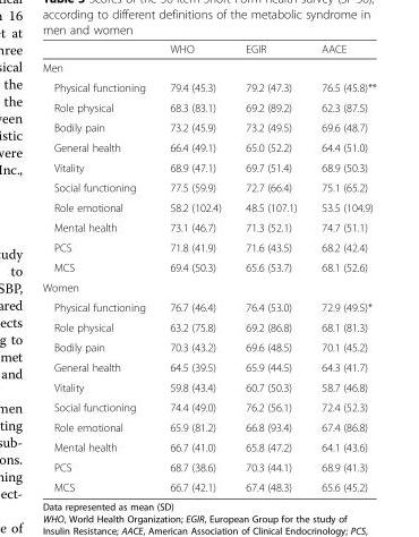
<table><thead><tr><td></td><td>WHO</td><td>EGIR</td><td>AACE</td></tr></thead><tbody><tr><td colspan="4">Men</td></tr><tr><td>Physical functioning</td><td>79.4 (45.3)</td><td>79.2 (47.3)</td><td>76.5 (45.8)**</td></tr><tr><td>Role physical</td><td>68.3 (83.1)</td><td>69.2 (89.2)</td><td>62.3 (87.5)</td></tr><tr><td>Bodily pain</td><td>73.2 (45.9)</td><td>73.2 (49.5)</td><td>69.6 (48.7)</td></tr><tr><td>General health</td><td>66.4 (49.1)</td><td>65.0 (52.2)</td><td>64.4 (51.0)</td></tr><tr><td>Vitality</td><td>68.9 (47.1)</td><td>69.7 (51.4)</td><td>68.9 (50.3)</td></tr><tr><td>Social functioning</td><td>77.5 (59.9)</td><td>72.7 (66.4)</td><td>75.1 (65.2)</td></tr><tr><td>Role emotional</td><td>58.2 (102.4)</td><td>48.5 (107.1)</td><td>53.5 (104.9)</td></tr><tr><td>Mental health</td><td>73.1 (46.7)</td><td>71.3 (52.1)</td><td>74.7 (51.1)</td></tr><tr><td>PCS</td><td>71.8 (41.9)</td><td>71.6 (43.5)</td><td>68.2 (42.4)</td></tr><tr><td>MCS</td><td>69.4 (50.3)</td><td>65.6 (53.7)</td><td>68.1 (52.6)</td></tr><tr><td colspan="4">Women</td></tr><tr><td>Physical functioning</td><td>76.7 (46.4)</td><td>76.4 (53.0)</td><td>72.9 (49.5)*</td></tr><tr><td>Role physical</td><td>63.2 (75.8)</td><td>69.2 (86.8)</td><td>68.1 (81.3)</td></tr><tr><td>Bodily pain</td><td>70.3 (43.2)</td><td>69.6 (48.5)</td><td>70.1 (45.2)</td></tr><tr><td>General health</td><td>64.5 (39.5)</td><td>65.9 (44.5)</td><td>64.3 (41.7)</td></tr><tr><td>Vitality</td><td>59.8 (43.4)</td><td>60.7 (50.3)</td><td>58.7 (46.8)</td></tr><tr><td>Social functioning</td><td>74.4 (49.0)</td><td>76.2 (56.1)</td><td>72.4 (52.3)</td></tr><tr><td>Role emotional</td><td>65.9 (81.2)</td><td>66.8 (93.4)</td><td>67.4 (86.8)</td></tr><tr><td>Mental health</td><td>66.7 (41.0)</td><td>65.8 (47.2)</td><td>64.1 (43.6)</td></tr><tr><td>PCS</td><td>68.7 (38.6)</td><td>70.3 (44.1)</td><td>68.9 (41.3)</td></tr><tr><td>MCS</td><td>66.7 (42.1)</td><td>67.4 (48.3)</td><td>65.6 (45.2)</td></tr></tbody></table>